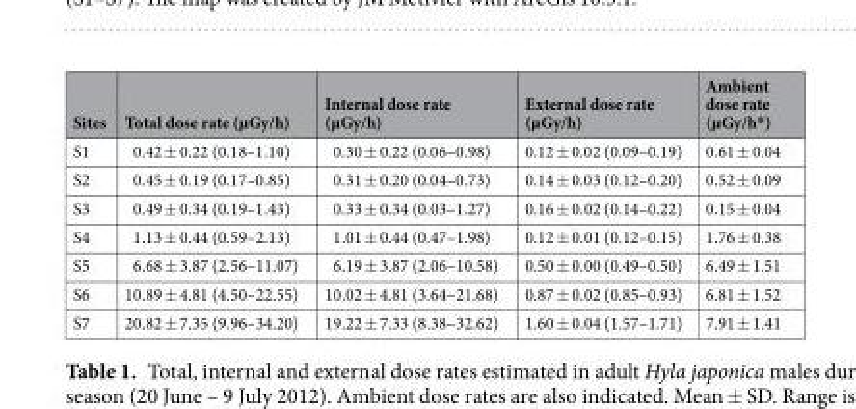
<table><thead><tr><td>Sites</td><td>Total dose rate (µGy/h)</td><td>Internal dose rate (µGy/h)</td><td>External dose rate (µGy/h)</td><td>Ambient dose rate (µGy/h*)</td></tr></thead><tbody><tr><td>S1</td><td>0.42 ± 0.22 (0.18–1.10)</td><td>0.30 ± 0.22 (0.06–0.98)</td><td>0.12 ± 0.02 (0.09–0.19)</td><td>0.61 ± 0.04</td></tr><tr><td>S2</td><td>0.45 ± 0.19 (0.17–0.85)</td><td>0.31 ± 0.20 (0.04–0.73)</td><td>0.14 ± 0.03 (0.12–0.20)</td><td>0.52 ± 0.09</td></tr><tr><td>S3</td><td>0.49 ± 0.34 (0.19–1.43)</td><td>0.33 ± 0.34 (0.03–1.27)</td><td>0.16 ± 0.02 (0.14–0.22)</td><td>0.15 ± 0.04</td></tr><tr><td>S4</td><td>1.13 ± 0.44 (0.59–2.13)</td><td>1.01 ± 0.44 (0.47–1.98)</td><td>0.12 ± 0.01 (0.12–0.15)</td><td>1.76 ± 0.38</td></tr><tr><td>S5</td><td>6.68 ± 3.87 (2.56–11.07)</td><td>6.19 ± 3.87 (2.06–10.58)</td><td>0.50 ± 0.00 (0.49–0.50)</td><td>6.49 ± 1.51</td></tr><tr><td>S6</td><td>10.89 ± 4.81 (4.50–22.55)</td><td>10.02 ± 4.81 (3.64–21.68)</td><td>0.87 ± 0.02 (0.85–0.93)</td><td>6.81 ± 1.52</td></tr><tr><td>S7</td><td>20.82 ± 7.35 (9.96–34.20)</td><td>19.22 ± 7.33 (8.38–32.62)</td><td>1.60 ± 0.04 (1.57–1.71)</td><td>7.91 ± 1.41</td></tr></tbody></table>